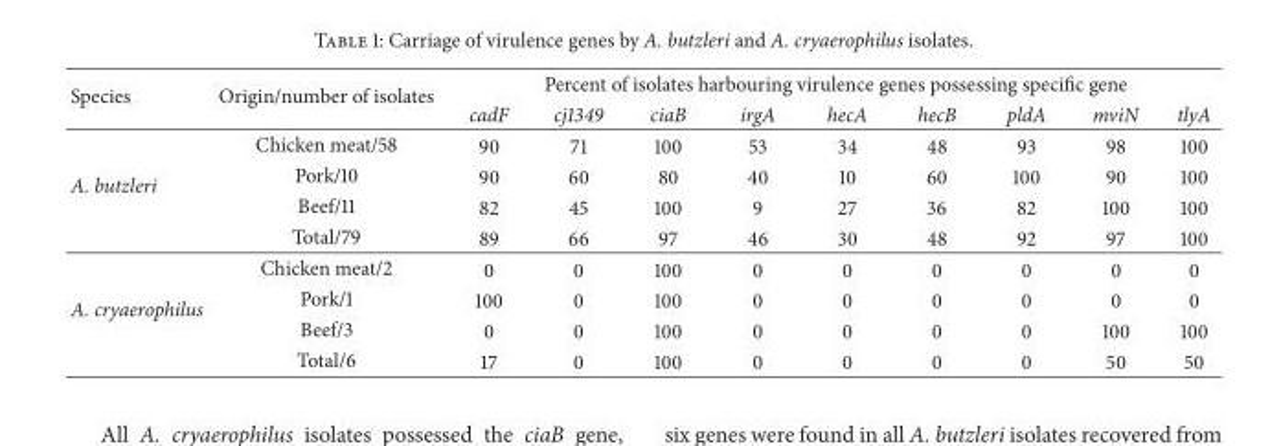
<table><thead><tr><td rowspan="2">Species</td><td rowspan="2">Origin/number of isolates</td><td colspan="9">Percent of isolates harbouring virulence genes possessing specific gene</td></tr><tr><td>cadF</td><td>cj1349</td><td>ciaB</td><td>irgA</td><td>hecA</td><td>hecB</td><td>pldA</td><td>mviN</td><td>tlyA</td></tr></thead><tbody><tr><td rowspan="4">A. butzleri</td><td>Chicken meat/58</td><td>90</td><td>71</td><td>100</td><td>53</td><td>34</td><td>48</td><td>93</td><td>98</td><td>100</td></tr><tr><td>Pork/10</td><td>90</td><td>60</td><td>80</td><td>40</td><td>10</td><td>60</td><td>100</td><td>90</td><td>100</td></tr><tr><td>Beef/11</td><td>82</td><td>45</td><td>100</td><td>9</td><td>27</td><td>36</td><td>82</td><td>100</td><td>100</td></tr><tr><td>Total/79</td><td>89</td><td>66</td><td>97</td><td>46</td><td>30</td><td>48</td><td>92</td><td>97</td><td>100</td></tr><tr><td rowspan="4">A. cryaerophilus</td><td>Chicken meat/2</td><td>0</td><td>0</td><td>100</td><td>0</td><td>0</td><td>0</td><td>0</td><td>0</td><td>0</td></tr><tr><td>Pork/1</td><td>100</td><td>0</td><td>100</td><td>0</td><td>0</td><td>0</td><td>0</td><td>0</td><td>0</td></tr><tr><td>Beef/3</td><td>0</td><td>0</td><td>100</td><td>0</td><td>0</td><td>0</td><td>0</td><td>100</td><td>100</td></tr><tr><td>Total/6</td><td>17</td><td>0</td><td>100</td><td>0</td><td>0</td><td>0</td><td>0</td><td>50</td><td>50</td></tr></tbody></table>